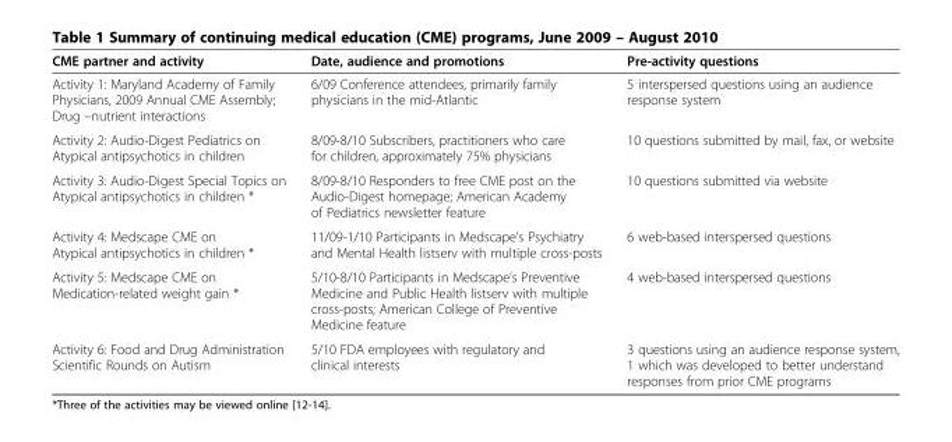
<table><thead><tr><td>CME partner and activity</td><td>Date, audience and promotions</td><td>Pre-activity questions</td></tr></thead><tbody><tr><td>Activity 1: Maryland Academy of Family Physicians, 2009 Annual CME Assembly; Drug –nutrient interactions</td><td>6/09 Conference attendees, primarily family physicians in the mid-Atlantic</td><td>5 interspersed questions using an audience response system</td></tr><tr><td>Activity 2: Audio-Digest Pediatrics on Atypical antipsychotics in children</td><td>8/09-8/10 Subscribers, practitioners who care for children, approximately 75% physicians</td><td>10 questions submitted by mail, fax, or website</td></tr><tr><td>Activity 3: Audio-Digest Special Topics on Atypical antipsychotics in children *</td><td>8/09-8/10 Responders to free CME post on the Audio-Digest homepage; American Academy of Pediatrics newsletter feature</td><td>10 questions submitted via website</td></tr><tr><td>Activity 4: Medscape CME on Atypical antipsychotics in children *</td><td>11/09-1/10 Participants in Medscape’s Psychiatry and Mental Health listserv with multiple cross-posts</td><td>6 web-based interspersed questions</td></tr><tr><td>Activity 5: Medscape CME on Medication-related weight gain *</td><td>5/10-8/10 Participants in Medscape’s Preventive Medicine and Public Health listserv with multiple cross-posts; American College of Preventive Medicine feature</td><td>4 web-based interspersed questions</td></tr><tr><td>Activity 6: Food and Drug Administration Scientific Rounds on Autism</td><td>5/10 FDA employees with regulatory and clinical interests</td><td>3 questions using an audience response system, 1 which was developed to better understand responses from prior CME programs</td></tr></tbody></table>